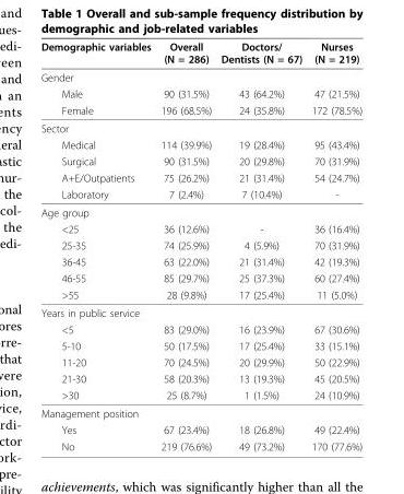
<table><thead><tr><td>Demographic variables</td><td>Overall (N = 286)</td><td>Doctors/ Dentists (N = 67)</td><td>Nurses (N = 219)</td></tr></thead><tbody><tr><td colspan="4">Gender</td></tr><tr><td>Male</td><td>90 (31.5%)</td><td>43 (64.2%)</td><td>47 (21.5%)</td></tr><tr><td>Female</td><td>196 (68.5%)</td><td>24 (35.8%)</td><td>172 (78.5%)</td></tr><tr><td colspan="4">Sector</td></tr><tr><td>Medical</td><td>114 (39.9%)</td><td>19 (28.4%)</td><td>95 (43.4%)</td></tr><tr><td>Surgical</td><td>90 (31.5%)</td><td>20 (29.8%)</td><td>70 (31.9%)</td></tr><tr><td>A+E/Outpatients</td><td>75 (26.2%)</td><td>21 (31.4%)</td><td>54 (24.7%)</td></tr><tr><td>Laboratory</td><td>7 (2.4%)</td><td>7 (10.4%)</td><td>-</td></tr><tr><td colspan="4">Age group</td></tr><tr><td>&lt;25</td><td>36 (12.6%)</td><td>-</td><td>36 (16.4%)</td></tr><tr><td>25-35</td><td>74 (25.9%)</td><td>4 (5.9%)</td><td>70 (31.9%)</td></tr><tr><td>36-45</td><td>63 (22.0%)</td><td>21 (31.4%)</td><td>42 (19.3%)</td></tr><tr><td>46-55</td><td>85 (29.7%)</td><td>25 (37.3%)</td><td>60 (27.4%)</td></tr><tr><td>&gt;55</td><td>28 (9.8%)</td><td>17 (25.4%)</td><td>11 (5.0%)</td></tr><tr><td colspan="4">Years in public service</td></tr><tr><td>&lt;5</td><td>83 (29.0%)</td><td>16 (23.9%)</td><td>67 (30.6%)</td></tr><tr><td>5-10</td><td>50 (17.5%)</td><td>17 (25.4%)</td><td>33 (15.1%)</td></tr><tr><td>11-20</td><td>70 (24.5%)</td><td>20 (29.9%)</td><td>50 (22.9%)</td></tr><tr><td>21-30</td><td>58 (20.3%)</td><td>13 (19.3%)</td><td>45 (20.5%)</td></tr><tr><td>&gt;30</td><td>25 (8.7%)</td><td>1 (1.5%)</td><td>24 (10.9%)</td></tr><tr><td colspan="4">Management position</td></tr><tr><td>Yes</td><td>67 (23.4%)</td><td>18 (26.8%)</td><td>49 (22.4%)</td></tr><tr><td>No</td><td>219 (76.6%)</td><td>49 (73.2%)</td><td>170 (77.6%)</td></tr></tbody></table>